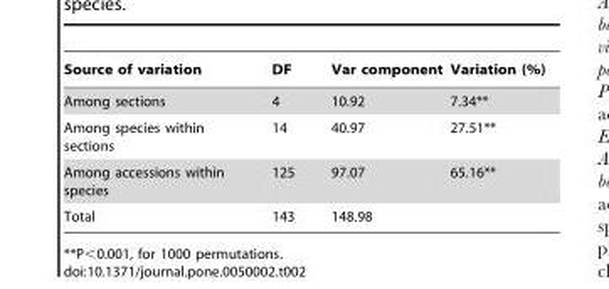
<table><thead><tr><td>Source of variation</td><td>DF</td><td>Var component</td><td>Variation (%)</td></tr></thead><tbody><tr><td>Among sections</td><td>4</td><td>10.92</td><td>7.34**</td></tr><tr><td>Among species within sections</td><td>14</td><td>40.97</td><td>27.51**</td></tr><tr><td>Among accessions within species</td><td>125</td><td>97.07</td><td>65.16**</td></tr><tr><td>Total</td><td>143</td><td>148.98</td><td></td></tr></tbody></table>